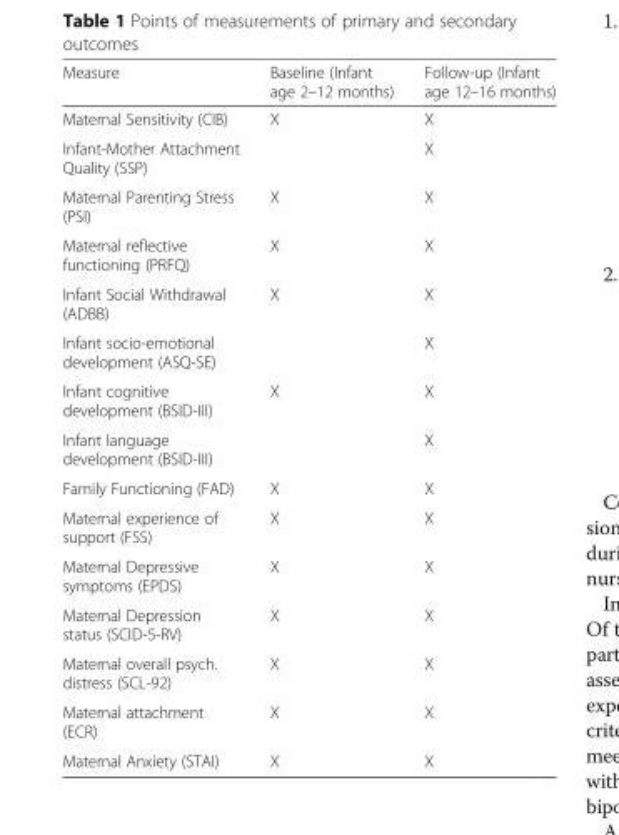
<table><thead><tr><td>Measure</td><td>Baseline (Infant age 2–12 months)</td><td>Follow-up (Infant age 12–16 months)</td></tr></thead><tbody><tr><td>Maternal Sensitivity (CIB)</td><td>X</td><td>X</td></tr><tr><td>Infant-Mother Attachment Quality (SSP)</td><td></td><td>X</td></tr><tr><td>Maternal Parenting Stress (PSI)</td><td>X</td><td>X</td></tr><tr><td>Maternal reflective functioning (PRFQ)</td><td>X</td><td>X</td></tr><tr><td>Infant Social Withdrawal (ADBB)</td><td>X</td><td>X</td></tr><tr><td>Infant socio-emotional development (ASQ-SE)</td><td></td><td>X</td></tr><tr><td>Infant cognitive development (BSID-III)</td><td>X</td><td>X</td></tr><tr><td>Infant language development (BSID-III)</td><td></td><td>X</td></tr><tr><td>Family Functioning (FAD)</td><td>X</td><td>X</td></tr><tr><td>Maternal experience of support (FSS)</td><td>X</td><td>X</td></tr><tr><td>Maternal Depressive symptoms (EPDS)</td><td>X</td><td>X</td></tr><tr><td>Maternal Depression status (SCID-5-RV)</td><td>X</td><td>X</td></tr><tr><td>Maternal overall psych. distress (SCL-92)</td><td>X</td><td>X</td></tr><tr><td>Maternal attachment (ECR)</td><td>X</td><td>X</td></tr><tr><td>Maternal Anxiety (STAI)</td><td>X</td><td>X</td></tr></tbody></table>